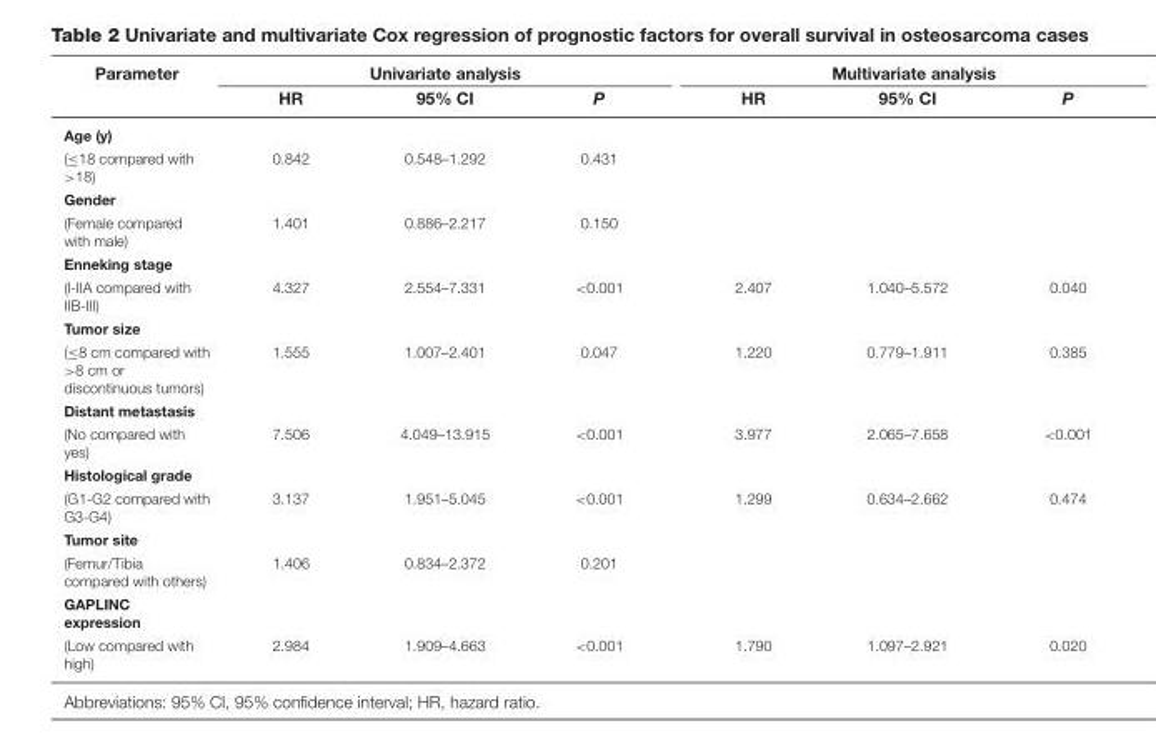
<table><thead><tr><td rowspan="2">Parameter</td><td colspan="3">Univariate analysis</td><td colspan="3">Multivariate analysis</td></tr><tr><td>HR</td><td>95% CI</td><td>P</td><td>HR</td><td>95% CI</td><td>P</td></tr></thead><tbody><tr><td colspan="7">Age (y)</td></tr><tr><td>(≤18 compared with &gt;18)</td><td>0.842</td><td>0.548–1.292</td><td>0.431</td><td></td><td></td><td></td></tr><tr><td colspan="7">Gender</td></tr><tr><td>(Female compared with male)</td><td>1.401</td><td>0.886–2.217</td><td>0.150</td><td></td><td></td><td></td></tr><tr><td colspan="7">Enneking stage</td></tr><tr><td>(I-IIA compared with IIB-III)</td><td>4.327</td><td>2.554–7.331</td><td>&lt;0.001</td><td>2.407</td><td>1.040–5.572</td><td>0.040</td></tr><tr><td colspan="7">Tumor size</td></tr><tr><td>(≤8 cm compared with &gt;8 cm or discontinuous tumors)</td><td>1.555</td><td>1.007–2.401</td><td>0.047</td><td>1.220</td><td>0.779–1.911</td><td>0.385</td></tr><tr><td colspan="7">Distant metastasis</td></tr><tr><td>(No compared with yes)</td><td>7.506</td><td>4.049–13.915</td><td>&lt;0.001</td><td>3.977</td><td>2.065–7.658</td><td>&lt;0.001</td></tr><tr><td colspan="7">Histological grade</td></tr><tr><td>(G1-G2 compared with G3-G4)</td><td>3.137</td><td>1.951–5.045</td><td>&lt;0.001</td><td>1.299</td><td>0.634–2.662</td><td>0.474</td></tr><tr><td colspan="7">Tumor site</td></tr><tr><td>(Femur/Tibia compared with others)</td><td>1.406</td><td>0.834–2.372</td><td>0.201</td><td></td><td></td><td></td></tr><tr><td colspan="7">GAPLINC expression</td></tr><tr><td>(Low compared with high)</td><td>2.984</td><td>1.909–4.663</td><td>&lt;0.001</td><td>1.790</td><td>1.097–2.921</td><td>0.020</td></tr></tbody></table>